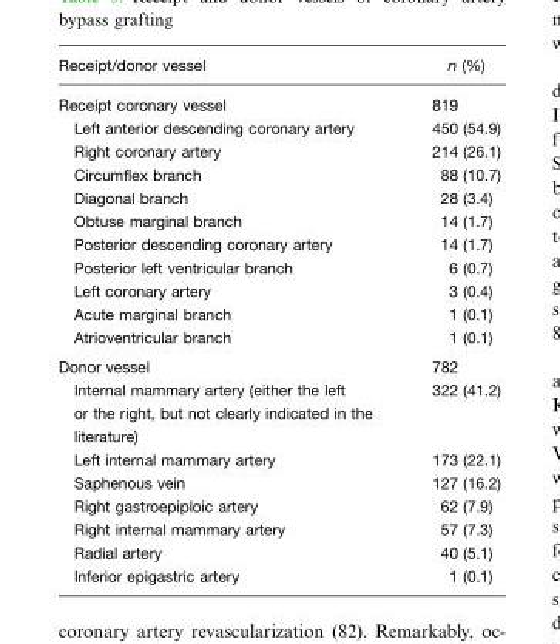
<table><thead><tr><td>Receipt/donor vessel</td><td>n (%)</td></tr></thead><tbody><tr><td>Receipt coronary vessel</td><td>819</td></tr><tr><td>Left anterior descending coronary artery</td><td>450 (54.9)</td></tr><tr><td>Right coronary artery</td><td>214 (26.1)</td></tr><tr><td>Circumflex branch</td><td>88 (10.7)</td></tr><tr><td>Diagonal branch</td><td>28 (3.4)</td></tr><tr><td>Obtuse marginal branch</td><td>14 (1.7)</td></tr><tr><td>Posterior descending coronary artery</td><td>14 (1.7)</td></tr><tr><td>Posterior left ventricular branch</td><td>6 (0.7)</td></tr><tr><td>Left coronary artery</td><td>3 (0.4)</td></tr><tr><td>Acute marginal branch</td><td>1 (0.1)</td></tr><tr><td>Atrioventricular branch</td><td>1 (0.1)</td></tr><tr><td>Donor vessel</td><td>782</td></tr><tr><td>Internal mammary artery (either the left or the right, but not clearly indicated in the literature)</td><td>322 (41.2)</td></tr><tr><td>Left internal mammary artery</td><td>173 (22.1)</td></tr><tr><td>Saphenous vein</td><td>127 (16.2)</td></tr><tr><td>Right gastroepiploic artery</td><td>62 (7.9)</td></tr><tr><td>Right internal mammary artery</td><td>57 (7.3)</td></tr><tr><td>Radial artery</td><td>40 (5.1)</td></tr><tr><td>Inferior epigastric artery</td><td>1 (0.1)</td></tr></tbody></table>